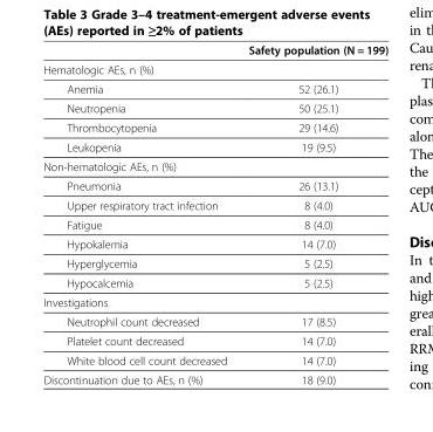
<table><thead><tr><td></td><td>Safety population (N = 199)</td></tr></thead><tbody><tr><td colspan="2">Hematologic AEs, n (%)</td></tr><tr><td>Anemia</td><td>52 (26.1)</td></tr><tr><td>Neutropenia</td><td>50 (25.1)</td></tr><tr><td>Thrombocytopenia</td><td>29 (14.6)</td></tr><tr><td>Leukopenia</td><td>19 (9.5)</td></tr><tr><td colspan="2">Non-hematologic AEs, n (%)</td></tr><tr><td>Pneumonia</td><td>26 (13.1)</td></tr><tr><td>Upper respiratory tract infection</td><td>8 (4.0)</td></tr><tr><td>Fatigue</td><td>8 (4.0)</td></tr><tr><td>Hypokalemia</td><td>14 (7.0)</td></tr><tr><td>Hyperglycemia</td><td>5 (2.5)</td></tr><tr><td>Hypocalcemia</td><td>5 (2.5)</td></tr><tr><td colspan="2">Investigations</td></tr><tr><td>Neutrophil count decreased</td><td>17 (8.5)</td></tr><tr><td>Platelet count decreased</td><td>14 (7.0)</td></tr><tr><td>White blood cell count decreased</td><td>14 (7.0)</td></tr><tr><td>Discontinuation due to AEs, n (%)</td><td>18 (9.0)</td></tr></tbody></table>